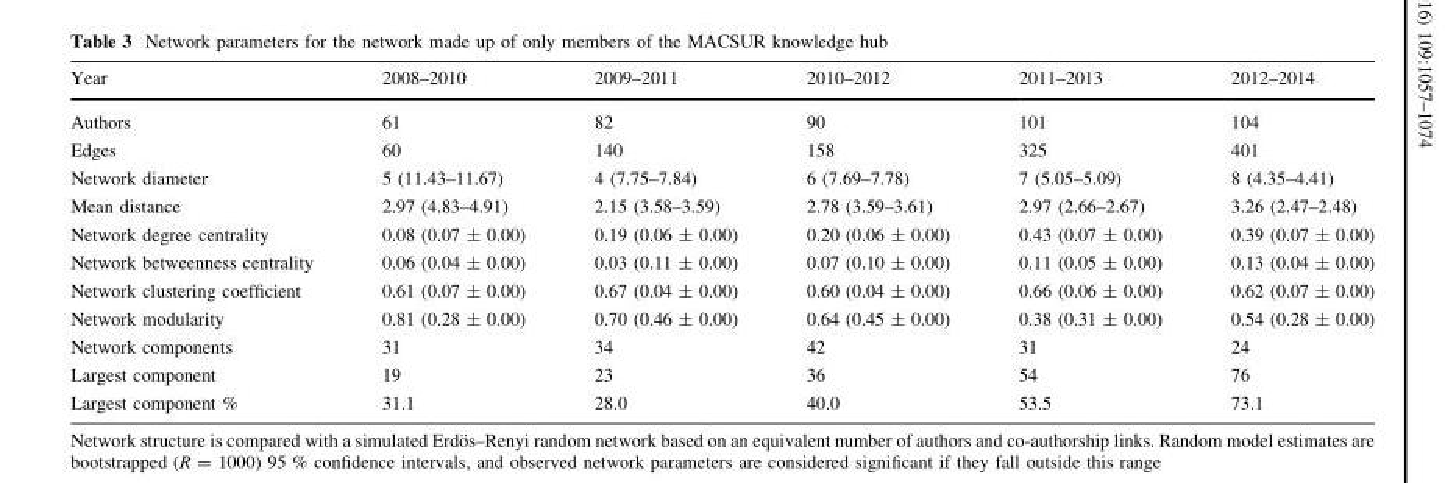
<table><thead><tr><td>Year</td><td>2008–2010</td><td>2009–2011</td><td>2010–2012</td><td>2011–2013</td><td>2012–2014</td></tr></thead><tbody><tr><td>Authors</td><td>61</td><td>82</td><td>90</td><td>101</td><td>104</td></tr><tr><td>Edges</td><td>60</td><td>140</td><td>158</td><td>325</td><td>401</td></tr><tr><td>Network diameter</td><td>5 (11.43–11.67)</td><td>4 (7.75–7.84)</td><td>6 (7.69–7.78)</td><td>7 (5.05–5.09)</td><td>8 (4.35–4.41)</td></tr><tr><td>Mean distance</td><td>2.97 (4.83–4.91)</td><td>2.15 (3.58–3.59)</td><td>2.78 (3.59–3.61)</td><td>2.97 (2.66–2.67)</td><td>3.26 (2.47–2.48)</td></tr><tr><td>Network degree centrality</td><td>0.08 (0.07 ± 0.00)</td><td>0.19 (0.06 ± 0.00)</td><td>0.20 (0.06 ± 0.00)</td><td>0.43 (0.07 ± 0.00)</td><td>0.39 (0.07 ± 0.00)</td></tr><tr><td>Network betweenness centrality</td><td>0.06 (0.04 ± 0.00)</td><td>0.03 (0.11 ± 0.00)</td><td>0.07 (0.10 ± 0.00)</td><td>0.11 (0.05 ± 0.00)</td><td>0.13 (0.04 ± 0.00)</td></tr><tr><td>Network clustering coefficient</td><td>0.61 (0.07 ± 0.00)</td><td>0.67 (0.04 ± 0.00)</td><td>0.60 (0.04 ± 0.00)</td><td>0.66 (0.06 ± 0.00)</td><td>0.62 (0.07 ± 0.00)</td></tr><tr><td>Network modularity</td><td>0.81 (0.28 ± 0.00)</td><td>0.70 (0.46 ± 0.00)</td><td>0.64 (0.45 ± 0.00)</td><td>0.38 (0.31 ± 0.00)</td><td>0.54 (0.28 ± 0.00)</td></tr><tr><td>Network components</td><td>31</td><td>34</td><td>42</td><td>31</td><td>24</td></tr><tr><td>Largest component</td><td>19</td><td>23</td><td>36</td><td>54</td><td>76</td></tr><tr><td>Largest component %</td><td>31.1</td><td>28.0</td><td>40.0</td><td>53.5</td><td>73.1</td></tr></tbody></table>